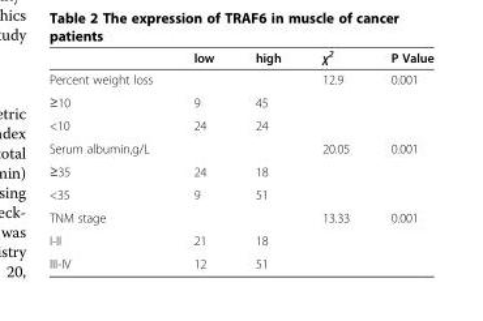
<table><thead><tr><td></td><td>low</td><td>high</td><td>χ<sup>2</sup></td><td>P Value</td></tr></thead><tbody><tr><td>Percent weight loss</td><td></td><td></td><td>12.9</td><td>0.001</td></tr><tr><td>≥10</td><td>9</td><td>45</td><td></td><td></td></tr><tr><td>&lt;10</td><td>24</td><td>24</td><td></td><td></td></tr><tr><td>Serum albumin,g/L</td><td></td><td></td><td>20.05</td><td>0.001</td></tr><tr><td>≥35</td><td>24</td><td>18</td><td></td><td></td></tr><tr><td>&lt;35</td><td>9</td><td>51</td><td></td><td></td></tr><tr><td>TNM stage</td><td></td><td></td><td>13.33</td><td>0.001</td></tr><tr><td>I-II</td><td>21</td><td>18</td><td></td><td></td></tr><tr><td>III-IV</td><td>12</td><td>51</td><td></td><td></td></tr></tbody></table>